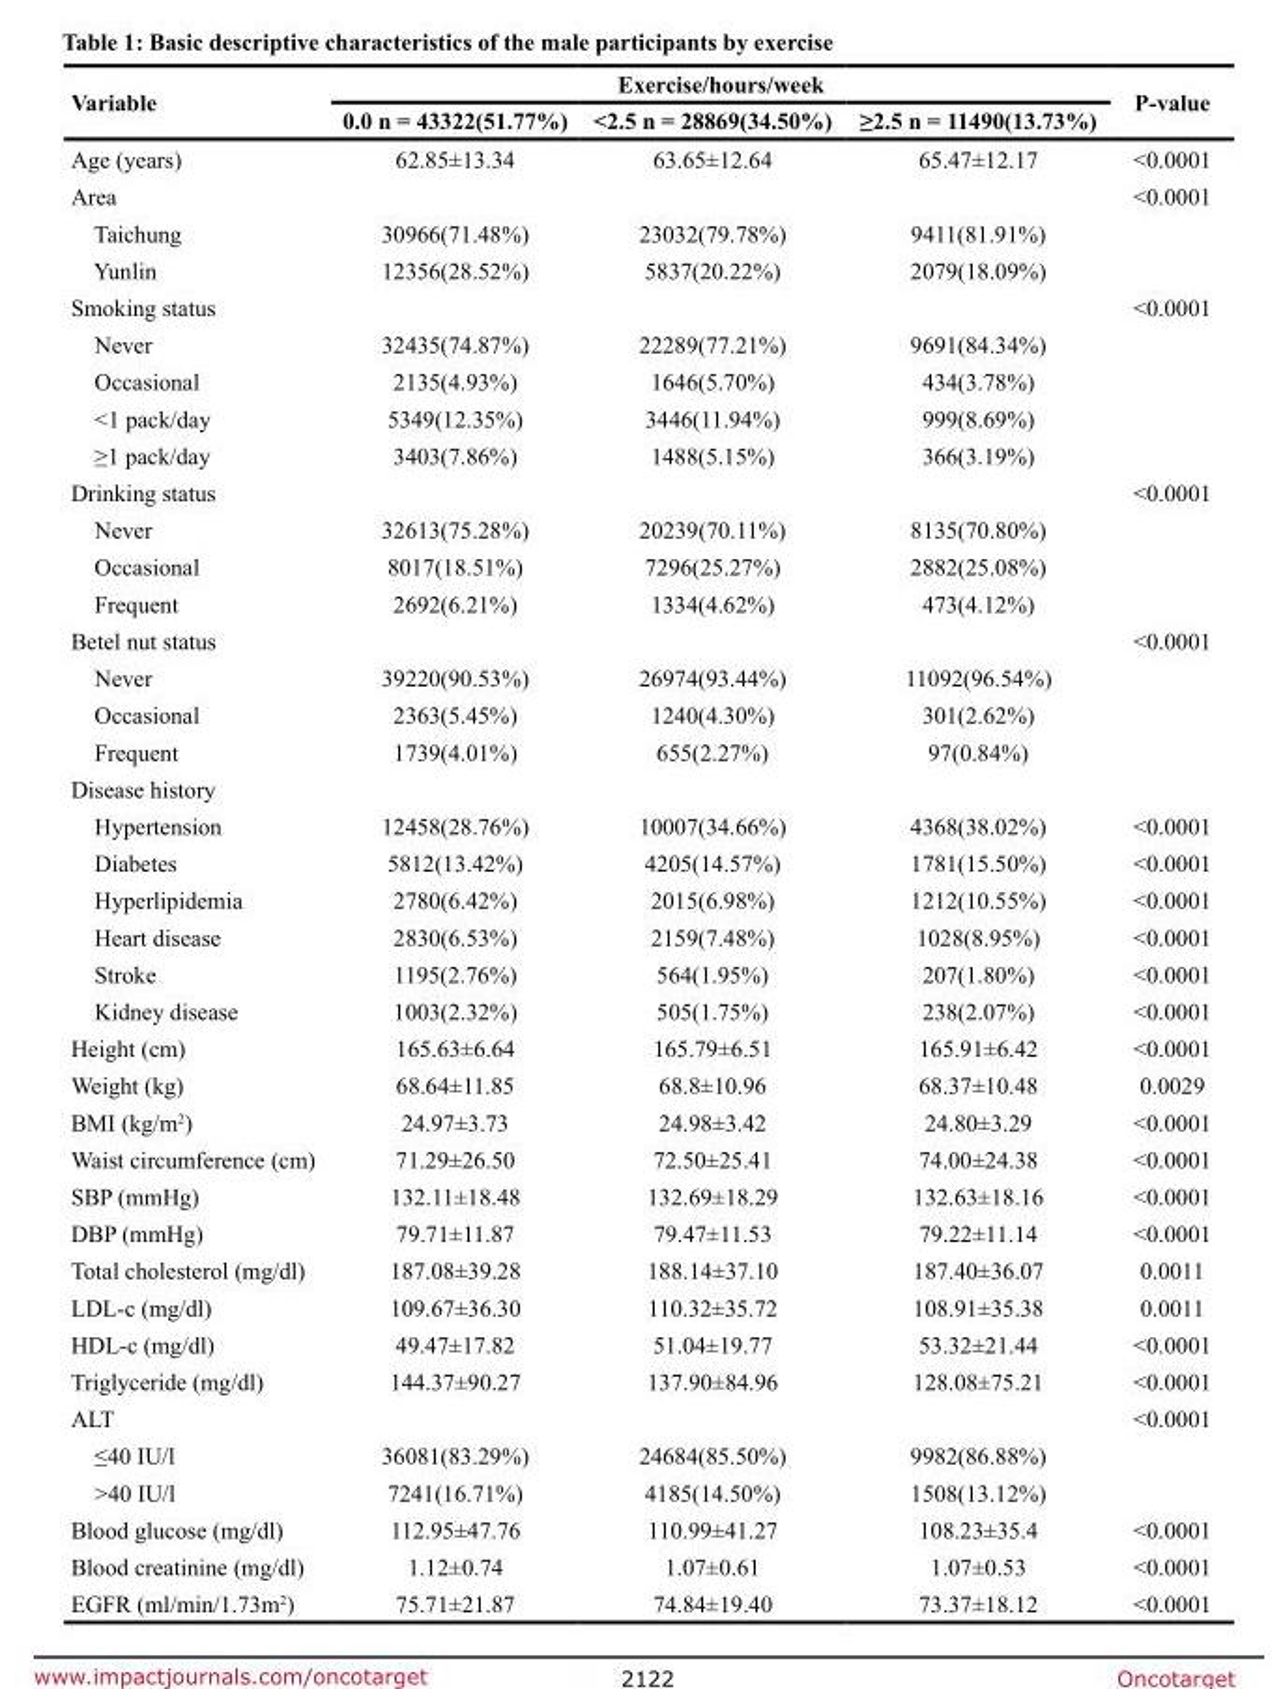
<table><thead><tr><td rowspan="2">Variable</td><td colspan="3">Exercise/hours/week</td><td rowspan="2">P-value</td></tr><tr><td>0.0 n = 43322(51.77%)</td><td>&lt;2.5 n = 28869(34.50%)</td><td>≥2.5 n = 11490(13.73%)</td></tr></thead><tbody><tr><td>Age (years)</td><td>62.85±13.34</td><td>63.65±12.64</td><td>65.47±12.17</td><td>&lt;0.0001</td></tr><tr><td>Area</td><td></td><td></td><td></td><td>&lt;0.0001</td></tr><tr><td>Taichung</td><td>30966(71.48%)</td><td>23032(79.78%)</td><td>9411(81.91%)</td><td></td></tr><tr><td>Yunlin</td><td>12356(28.52%)</td><td>5837(20.22%)</td><td>2079(18.09%)</td><td></td></tr><tr><td>Smoking status</td><td></td><td></td><td></td><td>&lt;0.0001</td></tr><tr><td>Never</td><td>32435(74.87%)</td><td>22289(77.21%)</td><td>9691(84.34%)</td><td></td></tr><tr><td>Occasional</td><td>2135(4.93%)</td><td>1646(5.70%)</td><td>434(3.78%)</td><td></td></tr><tr><td>&lt;1 pack/day</td><td>5349(12.35%)</td><td>3446(11.94%)</td><td>999(8.69%)</td><td></td></tr><tr><td>≥1 pack/day</td><td>3403(7.86%)</td><td>1488(5.15%)</td><td>366(3.19%)</td><td></td></tr><tr><td>Drinking status</td><td></td><td></td><td></td><td>&lt;0.0001</td></tr><tr><td>Never</td><td>32613(75.28%)</td><td>20239(70.11%)</td><td>8135(70.80%)</td><td></td></tr><tr><td>Occasional</td><td>8017(18.51%)</td><td>7296(25.27%)</td><td>2882(25.08%)</td><td></td></tr><tr><td>Frequent</td><td>2692(6.21%)</td><td>1334(4.62%)</td><td>473(4.12%)</td><td></td></tr><tr><td>Betel nut status</td><td></td><td></td><td></td><td>&lt;0.0001</td></tr><tr><td>Never</td><td>39220(90.53%)</td><td>26974(93.44%)</td><td>11092(96.54%)</td><td></td></tr><tr><td>Occasional</td><td>2363(5.45%)</td><td>1240(4.30%)</td><td>301(2.62%)</td><td></td></tr><tr><td>Frequent</td><td>1739(4.01%)</td><td>655(2.27%)</td><td>97(0.84%)</td><td></td></tr><tr><td colspan="5">Disease history</td></tr><tr><td>Hypertension</td><td>12458(28.76%)</td><td>10007(34.66%)</td><td>4368(38.02%)</td><td>&lt;0.0001</td></tr><tr><td>Diabetes</td><td>5812(13.42%)</td><td>4205(14.57%)</td><td>1781(15.50%)</td><td>&lt;0.0001</td></tr><tr><td>Hyperlipidemia</td><td>2780(6.42%)</td><td>2015(6.98%)</td><td>1212(10.55%)</td><td>&lt;0.0001</td></tr><tr><td>Heart disease</td><td>2830(6.53%)</td><td>2159(7.48%)</td><td>1028(8.95%)</td><td>&lt;0.0001</td></tr><tr><td>Stroke</td><td>1195(2.76%)</td><td>564(1.95%)</td><td>207(1.80%)</td><td>&lt;0.0001</td></tr><tr><td>Kidney disease</td><td>1003(2.32%)</td><td>505(1.75%)</td><td>238(2.07%)</td><td>&lt;0.0001</td></tr><tr><td>Height (cm)</td><td>165.63±6.64</td><td>165.79±6.51</td><td>165.91±6.42</td><td>&lt;0.0001</td></tr><tr><td>Weight (kg)</td><td>68.64±11.85</td><td>68.8±10.96</td><td>68.37±10.48</td><td>0.0029</td></tr><tr><td>BMI (kg/m<sup>2</sup>)</td><td>24.97±3.73</td><td>24.98±3.42</td><td>24.80±3.29</td><td>&lt;0.0001</td></tr><tr><td>Waist circumference (cm)</td><td>71.29±26.50</td><td>72.50±25.41</td><td>74.00±24.38</td><td>&lt;0.0001</td></tr><tr><td>SBP (mmHg)</td><td>132.11±18.48</td><td>132.69±18.29</td><td>132.63±18.16</td><td>&lt;0.0001</td></tr><tr><td>DBP (mmHg)</td><td>79.71±11.87</td><td>79.47±11.53</td><td>79.22±11.14</td><td>&lt;0.0001</td></tr><tr><td>Total cholesterol (mg/dl)</td><td>187.08±39.28</td><td>188.14±37.10</td><td>187.40±36.07</td><td>0.0011</td></tr><tr><td>LDL-c (mg/dl)</td><td>109.67±36.30</td><td>110.32±35.72</td><td>108.91±35.38</td><td>0.0011</td></tr><tr><td>HDL-c (mg/dl)</td><td>49.47±17.82</td><td>51.04±19.77</td><td>53.32±21.44</td><td>&lt;0.0001</td></tr><tr><td>Triglyceride (mg/dl)</td><td>144.37±90.27</td><td>137.90±84.96</td><td>128.08±75.21</td><td>&lt;0.0001</td></tr><tr><td>ALT</td><td></td><td></td><td></td><td>&lt;0.0001</td></tr><tr><td>≤40 IU/l</td><td>36081(83.29%)</td><td>24684(85.50%)</td><td>9982(86.88%)</td><td></td></tr><tr><td>&gt;40 IU/l</td><td>7241(16.71%)</td><td>4185(14.50%)</td><td>1508(13.12%)</td><td></td></tr><tr><td>Blood glucose (mg/dl)</td><td>112.95±47.76</td><td>110.99±41.27</td><td>108.23±35.4</td><td>&lt;0.0001</td></tr><tr><td>Blood creatinine (mg/dl)</td><td>1.12±0.74</td><td>1.07±0.61</td><td>1.07±0.53</td><td>&lt;0.0001</td></tr><tr><td>EGFR (ml/min/1.73m<sup>2</sup>)</td><td>75.71±21.87</td><td>74.84±19.40</td><td>73.37±18.12</td><td>&lt;0.0001</td></tr></tbody></table>